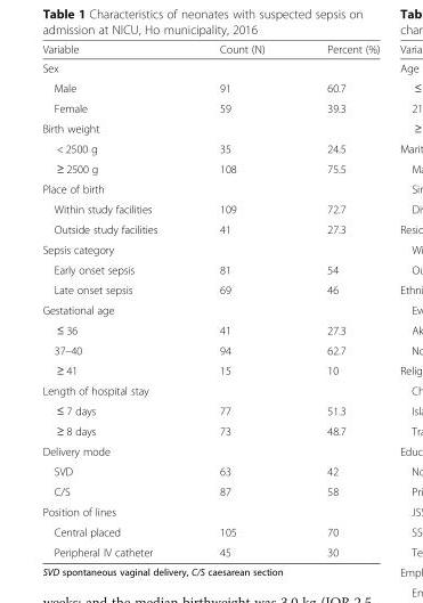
<table><thead><tr><td>Variable</td><td>Count (N)</td><td>Percent (%)</td></tr></thead><tbody><tr><td colspan="3">Sex</td></tr><tr><td>Male</td><td>91</td><td>60.7</td></tr><tr><td>Female</td><td>59</td><td>39.3</td></tr><tr><td colspan="3">Birth weight</td></tr><tr><td>&lt; 2500 g</td><td>35</td><td>24.5</td></tr><tr><td>≥ 2500 g</td><td>108</td><td>75.5</td></tr><tr><td colspan="3">Place of birth</td></tr><tr><td>Within study facilities</td><td>109</td><td>72.7</td></tr><tr><td>Outside study facilities</td><td>41</td><td>27.3</td></tr><tr><td colspan="3">Sepsis category</td></tr><tr><td>Early onset sepsis</td><td>81</td><td>54</td></tr><tr><td>Late onset sepsis</td><td>69</td><td>46</td></tr><tr><td colspan="3">Gestational age</td></tr><tr><td>≤ 36</td><td>41</td><td>27.3</td></tr><tr><td>37–40</td><td>94</td><td>62.7</td></tr><tr><td>≥ 41</td><td>15</td><td>10</td></tr><tr><td colspan="3">Length of hospital stay</td></tr><tr><td>≤ 7 days</td><td>77</td><td>51.3</td></tr><tr><td>≥ 8 days</td><td>73</td><td>48.7</td></tr><tr><td colspan="3">Delivery mode</td></tr><tr><td>SVD</td><td>63</td><td>42</td></tr><tr><td>C/S</td><td>87</td><td>58</td></tr><tr><td colspan="3">Position of lines</td></tr><tr><td>Central placed</td><td>105</td><td>70</td></tr><tr><td>Peripheral IV catheter</td><td>45</td><td>30</td></tr></tbody></table>